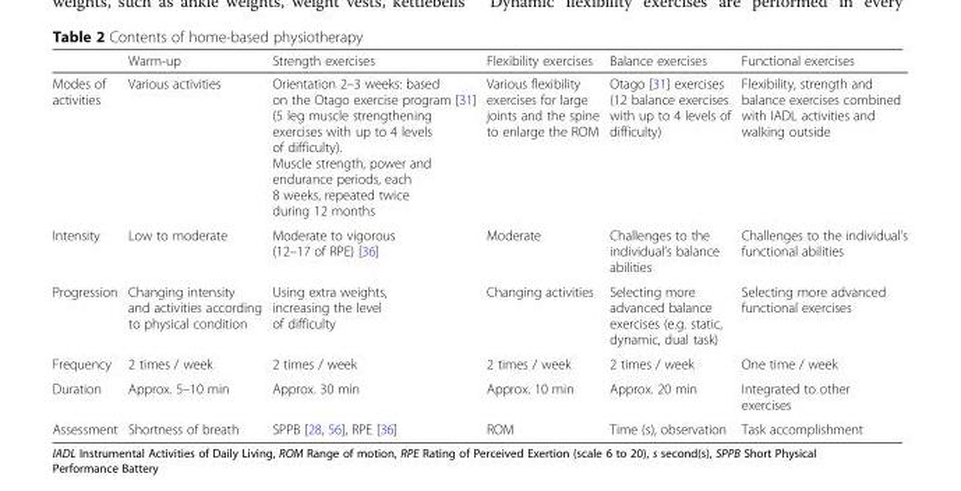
<table><thead><tr><td></td><td>Warm-up</td><td>Strength exercises</td><td>Flexibility exercises</td><td>Balance exercises</td><td>Functional exercises</td></tr></thead><tbody><tr><td>Modes of activities</td><td>Various activities</td><td>Orientation 2–3 weeks: based on the Otago exercise program [31] (5 leg muscle strengthening exercises with up to 4 levels of difficulty). Muscle strength, power and endurance periods, each 8 weeks, repeated twice during 12 months</td><td>Various flexibility exercises for large joints and the spine to enlarge the ROM</td><td>Otago [31] exercises (12 balance exercises with up to 4 levels of difficulty)</td><td>Flexibility, strength and balance exercises combined with IADL activities and walking outside</td></tr><tr><td>Intensity</td><td>Low to moderate</td><td>Moderate to vigorous (12–17 of RPE) [36]</td><td>Moderate</td><td>Challenges to the individual’s balance abilities</td><td>Challenges to the individual’s functional abilities</td></tr><tr><td>Progression</td><td>Changing intensity and activities according to physical condition</td><td>Using extra weights, increasing the level of difficulty</td><td>Changing activities</td><td>Selecting more advanced balance exercises (e.g. static, dynamic, dual task)</td><td>Selecting more advanced functional exercises</td></tr><tr><td>Frequency</td><td>2 times / week</td><td>2 times / week</td><td>2 times / week</td><td>2 times / week</td><td>One time / week</td></tr><tr><td>Duration</td><td>Approx. 5–10 min</td><td>Approx. 30 min</td><td>Approx. 10 min</td><td>Approx. 20 min</td><td>Integrated to other exercises</td></tr><tr><td>Assessment</td><td>Shortness of breath</td><td>SPPB [28, 56], RPE [36]</td><td>ROM</td><td>Time (s), observation</td><td>Task accomplishment</td></tr></tbody></table>